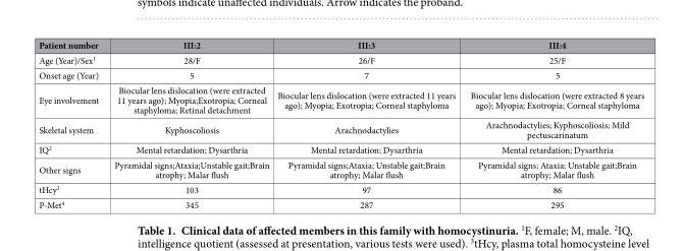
<table><thead><tr><td>Patient number</td><td>III:2</td><td>III:3</td><td>III:4</td></tr></thead><tbody><tr><td>Age (Year)/Sex<sup>1</sup></td><td>28/F</td><td>26/F</td><td>25/F</td></tr><tr><td>Onset age (Year)</td><td>5</td><td>7</td><td>5</td></tr><tr><td>Eye involvement</td><td>Biocular lens dislocation (were extracted 11 years ago); Myopia;Exotropia; Corneal staphyloma; Retinal detachment</td><td>Biocular lens dislocation (were extracted 11 years ago); Myopia; Exotropia; Corneal staphyloma</td><td>Biocular lens dislocation (were extracted 8 years ago); Myopia; Exotropia; Corneal staphyloma</td></tr><tr><td>Skeletal system</td><td>Kyphoscoliosis</td><td>Arachnodactylies</td><td>Arachnodactylies; Kyphoscoliosis; Mild pectuscarinatum</td></tr><tr><td>IQ<sup>2</sup></td><td>Mental retardation; Dysarthria</td><td>Mental retardation; Dysarthria</td><td>Mental retardation; Dysarthria</td></tr><tr><td>Other signs</td><td>Pyramidal signs;Ataxia;Unstable gait;Brain atrophy; Malar flush</td><td>Pyramidal signs;Ataxia; Unstable gait;Brain atrophy; Malar flush</td><td>Pyramidal signs; Ataxia; Unstable gait;Brain atrophy; Malar flush</td></tr><tr><td>tHcy<sup>3</sup></td><td>103</td><td>97</td><td>86</td></tr><tr><td>P-Met<sup>4</sup></td><td>345</td><td>287</td><td>295</td></tr></tbody></table>